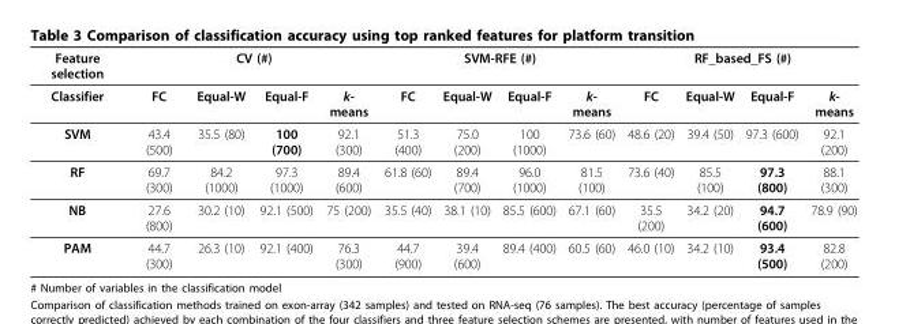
<table><thead><tr><td rowspan="2">Feature selection Classifier</td><td colspan="4">CV (#)</td><td colspan="4">SVM-RFE (#)</td><td colspan="4">RF_based_FS (#)</td></tr><tr><td>FC</td><td>Equal-W</td><td>Equal-F</td><td>k- means</td><td>FC</td><td>Equal-W</td><td>Equal-F</td><td>k- means</td><td>FC</td><td>Equal-W</td><td>Equal-F</td><td>k- means</td></tr></thead><tbody><tr><td>SVM</td><td>43.4 (500)</td><td>35.5 (80)</td><td>100 (700)</td><td>92.1 (300)</td><td>51.3 (400)</td><td>75.0 (200)</td><td>100 (1000)</td><td>73.6 (60)</td><td>48.6 (20)</td><td>39.4 (50)</td><td>97.3 (600)</td><td>92.1 (200)</td></tr><tr><td>RF</td><td>69.7 (300)</td><td>84.2 (1000)</td><td>97.3 (1000)</td><td>89.4 (600)</td><td>61.8 (60)</td><td>89.4 (700)</td><td>96.0 (1000)</td><td>81.5 (100)</td><td>73.6 (40)</td><td>85.5 (100)</td><td>97.3 (800)</td><td>88.1 (300)</td></tr><tr><td>NB</td><td>27.6 (800)</td><td>30.2 (10)</td><td>92.1 (500)</td><td>75 (200)</td><td>35.5 (40)</td><td>38.1 (10)</td><td>85.5 (600)</td><td>67.1 (60)</td><td>35.5 (200)</td><td>34.2 (20)</td><td>94.7 (600)</td><td>78.9 (90)</td></tr><tr><td>PAM</td><td>44.7 (300)</td><td>26.3 (10)</td><td>92.1 (400)</td><td>76.3 (300)</td><td>44.7 (900)</td><td>39.4 (600)</td><td>89.4 (400)</td><td>60.5 (60)</td><td>46.0 (10)</td><td>34.2 (10)</td><td>93.4 (500)</td><td>82.8 (200)</td></tr></tbody></table>